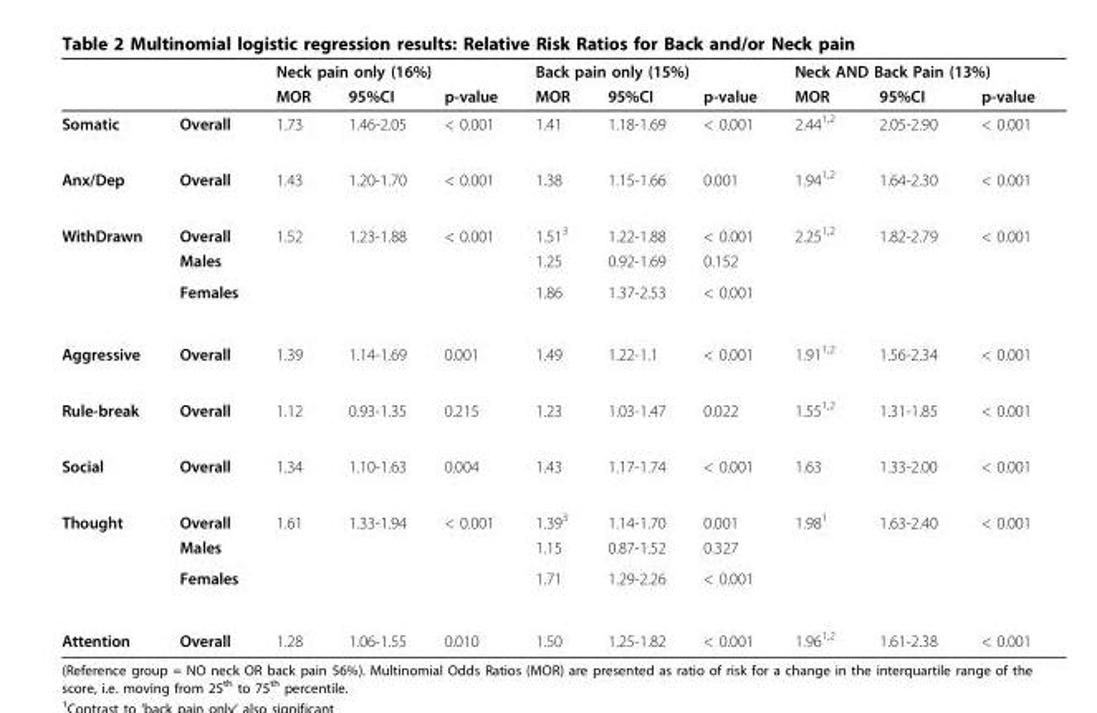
<table><thead><tr><td rowspan="2"></td><td rowspan="2"></td><td colspan="3">Neck pain only (16%)</td><td colspan="3">Back pain only (15%)</td><td colspan="3">Neck AND Back Pain (13%)</td></tr><tr><td>MOR</td><td>95%CI</td><td>p-value</td><td>MOR</td><td>95%CI</td><td>p-value</td><td>MOR</td><td>95%CI</td><td>p-value</td></tr></thead><tbody><tr><td>Somatic</td><td>Overall</td><td>1.73</td><td>1.46-2.05</td><td>&lt; 0.001</td><td>1.41</td><td>1.18-1.69</td><td>&lt; 0.001</td><td>2.44<sup>1,2</sup></td><td>2.05-2.90</td><td>&lt; 0.001</td></tr><tr><td>Anx/Dep</td><td>Overall</td><td>1.43</td><td>1.20-1.70</td><td>&lt; 0.001</td><td>1.38</td><td>1.15-1.66</td><td>0.001</td><td>1.94<sup>1,2</sup></td><td>1.64-2.30</td><td>&lt; 0.001</td></tr><tr><td rowspan="3">WithDrawn</td><td>Overall</td><td>1.52</td><td>1.23-1.88</td><td>&lt; 0.001</td><td>1.51<sup>3</sup></td><td>1.22-1.88</td><td>&lt; 0.001</td><td>2.25<sup>1,2</sup></td><td>1.82-2.79</td><td>&lt; 0.001</td></tr><tr><td>Males</td><td></td><td></td><td></td><td>1.25</td><td>0.92-1.69</td><td>0.152</td><td></td><td></td><td></td></tr><tr><td>Females</td><td></td><td></td><td></td><td>1.86</td><td>1.37-2.53</td><td>&lt; 0.001</td><td></td><td></td><td></td></tr><tr><td>Aggressive</td><td>Overall</td><td>1.39</td><td>1.14-1.69</td><td>0.001</td><td>1.49</td><td>1.22-1.1</td><td>&lt; 0.001</td><td>1.91<sup>1,2</sup></td><td>1.56-2.34</td><td>&lt; 0.001</td></tr><tr><td>Rule-break</td><td>Overall</td><td>1.12</td><td>0.93-1.35</td><td>0.215</td><td>1.23</td><td>1.03-1.47</td><td>0.022</td><td>1.55<sup>1,2</sup></td><td>1.31-1.85</td><td>&lt; 0.001</td></tr><tr><td>Social</td><td>Overall</td><td>1.34</td><td>1.10-1.63</td><td>0.004</td><td>1.43</td><td>1.17-1.74</td><td>&lt; 0.001</td><td>1.63</td><td>1.33-2.00</td><td>&lt; 0.001</td></tr><tr><td rowspan="3">Thought</td><td>Overall</td><td>1.61</td><td>1.33-1.94</td><td>&lt; 0.001</td><td>1.39<sup>3</sup></td><td>1.14-1.70</td><td>0.001</td><td>1.98<sup>1</sup></td><td>1.63-2.40</td><td>&lt; 0.001</td></tr><tr><td>Males</td><td></td><td></td><td></td><td>1.15</td><td>0.87-1.52</td><td>0.327</td><td></td><td></td><td></td></tr><tr><td>Females</td><td></td><td></td><td></td><td>1.71</td><td>1.29-2.26</td><td>&lt; 0.001</td><td></td><td></td><td></td></tr><tr><td>Attention</td><td>Overall</td><td>1.28</td><td>1.06-1.55</td><td>0.010</td><td>1.50</td><td>1.25-1.82</td><td>&lt; 0.001</td><td>1.96<sup>1,2</sup></td><td>1.61-2.38</td><td>&lt; 0.001</td></tr></tbody></table>